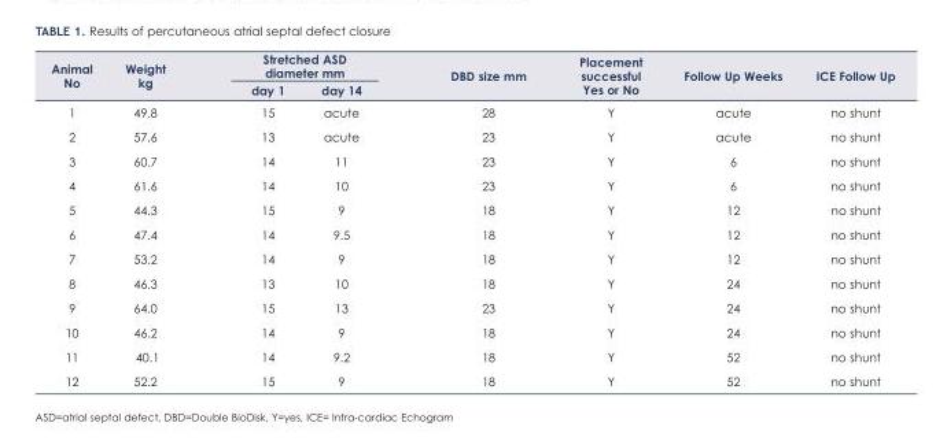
<table><thead><tr><td rowspan="2">Animal No</td><td rowspan="2">Weight kg</td><td colspan="2">Stretched ASD diameter mm</td><td rowspan="2">DBD size mm</td><td rowspan="2">Placement successful Yes or No</td><td rowspan="2">Follow Up Weeks</td><td rowspan="2">ICE Follow Up</td></tr><tr><td>day 1</td><td>day 14</td></tr></thead><tbody><tr><td>1</td><td>49.8</td><td>15</td><td>acute</td><td>28</td><td>Y</td><td>acute</td><td>no shunt</td></tr><tr><td>2</td><td>57.6</td><td>13</td><td>acute</td><td>23</td><td>Y</td><td>acute</td><td>no shunt</td></tr><tr><td>3</td><td>60.7</td><td>14</td><td>11</td><td>23</td><td>Y</td><td>6</td><td>no shunt</td></tr><tr><td>4</td><td>61.6</td><td>14</td><td>10</td><td>23</td><td>Y</td><td>6</td><td>no shunt</td></tr><tr><td>5</td><td>44.3</td><td>15</td><td>9</td><td>18</td><td>Y</td><td>12</td><td>no shunt</td></tr><tr><td>6</td><td>47.4</td><td>14</td><td>9.5</td><td>18</td><td>Y</td><td>12</td><td>no shunt</td></tr><tr><td>7</td><td>53.2</td><td>14</td><td>9</td><td>18</td><td>Y</td><td>12</td><td>no shunt</td></tr><tr><td>8</td><td>46.3</td><td>13</td><td>10</td><td>18</td><td>Y</td><td>24</td><td>no shunt</td></tr><tr><td>9</td><td>64.0</td><td>15</td><td>13</td><td>23</td><td>Y</td><td>24</td><td>no shunt</td></tr><tr><td>10</td><td>46.2</td><td>14</td><td>9</td><td>18</td><td>Y</td><td>24</td><td>no shunt</td></tr><tr><td>11</td><td>40.1</td><td>14</td><td>9.2</td><td>18</td><td>Y</td><td>52</td><td>no shunt</td></tr><tr><td>12</td><td>52.2</td><td>15</td><td>9</td><td>18</td><td>Y</td><td>52</td><td>no shunt</td></tr></tbody></table>